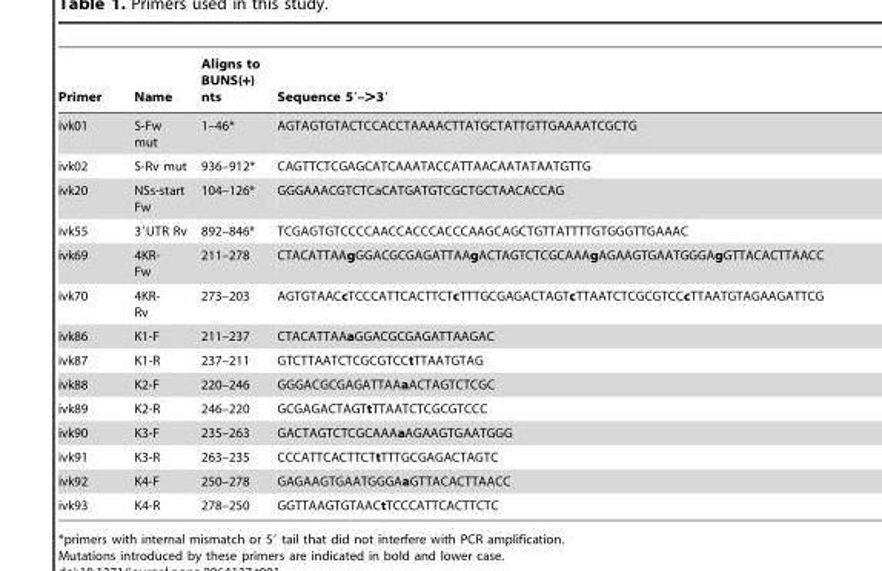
<table><thead><tr><td>Primer</td><td>Name</td><td>Aligns to BUNS(+) nts</td><td>Sequence 5′–&gt;3′</td></tr></thead><tbody><tr><td>ivk01</td><td>S-Fw mut</td><td>1–46*</td><td>AGTAGTGTACTCCACCTAAAACTTATGCTATTGTTGAAAATCGCTG</td></tr><tr><td>ivk02</td><td>S-Rv mut</td><td>936–912*</td><td>CAGTTCTCGAGCATCAAATACCATTAACAATATAATGTTG</td></tr><tr><td>ivk20</td><td>NSs-start Fw</td><td>104–126*</td><td>GGGAAACGTCTCaCATGATGTCGCTGCTAACACCAG</td></tr><tr><td>ivk55</td><td>3′UTR Rv</td><td>892–846*</td><td>TCGAGTGTCCCCAACCACCCACCCAAGCAGCTGTTATTTTGTGGGTTGAAAC</td></tr><tr><td>ivk69</td><td>4KR- Fw</td><td>211–278</td><td>CTACATTAAgGGACGCGAGATTAAgACTAGTCTCGCAAAgAGAAGTGAATGGGAgGTTACACTTAACC</td></tr><tr><td>ivk70</td><td>4KR- Rv</td><td>273–203</td><td>AGTGTAACcTCCCATTCACTTCTcTTTGCGAGACTAGTcTTAATCTCGCGTCCcTTAATGTAGAAGATTCG</td></tr><tr><td>ivk86</td><td>K1-F</td><td>211–237</td><td>CTACATTAAaGGACGCGAGATTAAGAC</td></tr><tr><td>ivk87</td><td>K1-R</td><td>237–211</td><td>GTCTTAATCTCGCGTCCtTTAATGTAG</td></tr><tr><td>ivk88</td><td>K2-F</td><td>220–246</td><td>GGGACGCGAGATTAAaACTAGTCTCGC</td></tr><tr><td>ivk89</td><td>K2-R</td><td>246–220</td><td>GCGAGACTAGTtTTAATCTCGCGTCCC</td></tr><tr><td>ivk90</td><td>K3-F</td><td>235–263</td><td>GACTAGTCTCGCAAAaAGAAGTGAATGGG</td></tr><tr><td>ivk91</td><td>K3-R</td><td>263–235</td><td>CCCATTCACTTCTtTTTGCGAGACTAGTC</td></tr><tr><td>ivk92</td><td>K4-F</td><td>250–278</td><td>GAGAAGTGAATGGGAaGTTACACTTAACC</td></tr><tr><td>ivk93</td><td>K4-R</td><td>278–250</td><td>GGTTAAGTGTAACtTCCCATTCACTTCTC</td></tr></tbody></table>